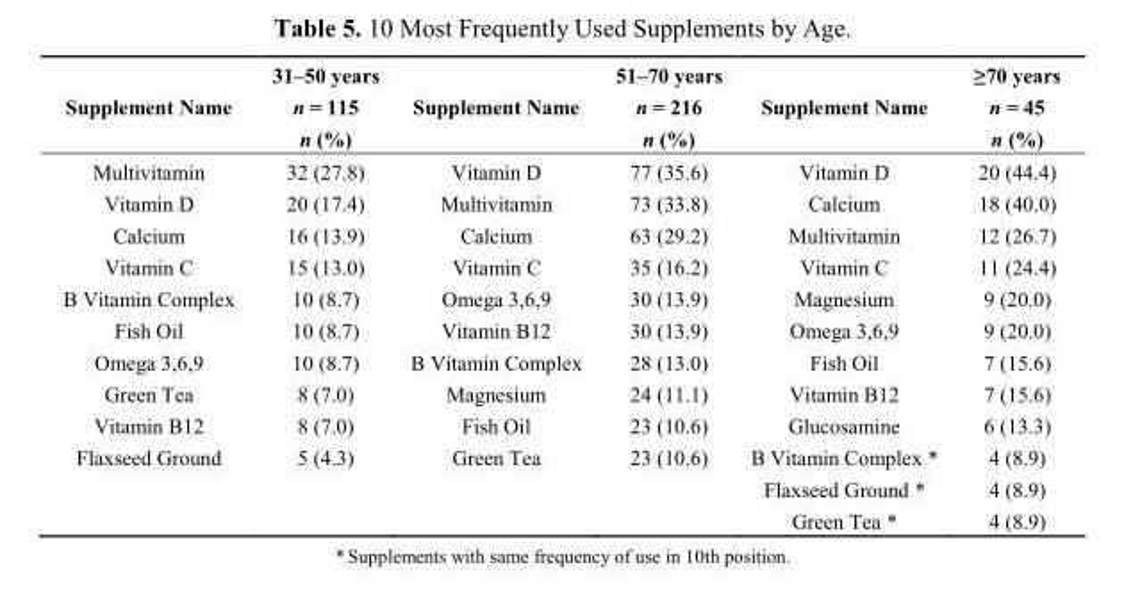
<table><thead><tr><td rowspan="3">Supplement Name</td><td rowspan="3">31–50 years n = 115 n (%)</td><td rowspan="3">Supplement Name</td><td rowspan="3">51–70 years n = 216 n (%)</td><td rowspan="3">Supplement Name</td><td rowspan="3">≥70 years n = 45 n (%)</td></tr><tr></tr><tr></tr></thead><tbody><tr><td>Multivitamin</td><td>32 (27.8)</td><td>Vitamin D</td><td>77 (35.6)</td><td>Vitamin D</td><td>20 (44.4)</td></tr><tr><td>Vitamin D</td><td>20 (17.4)</td><td>Multivitamin</td><td>73 (33.8)</td><td>Calcium</td><td>18 (40.0)</td></tr><tr><td>Calcium</td><td>16 (13.9)</td><td>Calcium</td><td>63 (29.2)</td><td>Multivitamin</td><td>12 (26.7)</td></tr><tr><td>Vitamin C</td><td>15 (13.0)</td><td>Vitamin C</td><td>35 (16.2)</td><td>Vitamin C</td><td>11 (24.4)</td></tr><tr><td>B Vitamin Complex</td><td>10 (8.7)</td><td>Omega 3,6,9</td><td>30 (13.9)</td><td>Magnesium</td><td>9 (20.0)</td></tr><tr><td>Fish Oil</td><td>10 (8.7)</td><td>Vitamin B12</td><td>30 (13.9)</td><td>Omega 3,6,9</td><td>9 (20.0)</td></tr><tr><td>Omega 3,6,9</td><td>10 (8.7)</td><td>B Vitamin Complex</td><td>28 (13.0)</td><td>Fish Oil</td><td>7 (15.6)</td></tr><tr><td>Green Tea</td><td>8 (7.0)</td><td>Magnesium</td><td>24 (11.1)</td><td>Vitamin B12</td><td>7 (15.6)</td></tr><tr><td>Vitamin B12</td><td>8 (7.0)</td><td>Fish Oil</td><td>23 (10.6)</td><td>Glucosamine</td><td>6 (13.3)</td></tr><tr><td rowspan="3">Flaxseed Ground</td><td>5 (4.3)</td><td>Green Tea</td><td>23 (10.6)</td><td>B Vitamin Complex *</td><td>4 (8.9)</td></tr><tr><td></td><td></td><td></td><td>Flaxseed Ground *</td><td>4 (8.9)</td></tr><tr><td></td><td></td><td></td><td>Green Tea *</td><td>4 (8.9)</td></tr></tbody></table>